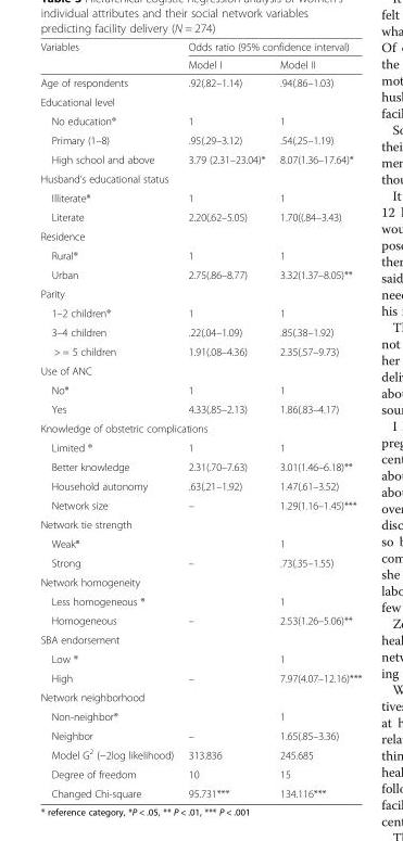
<table><thead><tr><td rowspan="2">Variables</td><td colspan="2">Odds ratio (95% confidence interval)</td></tr><tr><td>Model I</td><td>Model II</td></tr></thead><tbody><tr><td>Age of respondents</td><td>.92(.82–1.14)</td><td>.94(.86–1.03)</td></tr><tr><td colspan="3">Educational level</td></tr><tr><td>No education®</td><td>1</td><td>1</td></tr><tr><td>Primary (1–8)</td><td>.95(.29–3.12)</td><td>.54(.25–1.19)</td></tr><tr><td>High school and above</td><td>3.79 (2.31–23.04)*</td><td>8.07(1.36–17.64)*</td></tr><tr><td colspan="3">Husband’s educational status</td></tr><tr><td>Illiterate®</td><td>1</td><td>1</td></tr><tr><td>Literate</td><td>2.20(.62–5.05)</td><td>1.70((.84–3.43)</td></tr><tr><td colspan="3">Residence</td></tr><tr><td>Rural®</td><td>1</td><td>1</td></tr><tr><td>Urban</td><td>2.75(.86–8.77)</td><td>3.32(1.37–8.05)**</td></tr><tr><td colspan="3">Parity</td></tr><tr><td>1–2 children®</td><td>1</td><td>1</td></tr><tr><td>3–4 children</td><td>.22(.04–1.09)</td><td>.85(.38–1.92)</td></tr><tr><td>&gt; = 5 children</td><td>1.91(.08–4.36)</td><td>2.35(.57–9.73)</td></tr><tr><td colspan="3">Use of ANC</td></tr><tr><td>No®</td><td>1</td><td>1</td></tr><tr><td>Yes</td><td>4.33(.85–2.13)</td><td>1.86(.83–4.17)</td></tr><tr><td colspan="3">Knowledge of obstetric complications</td></tr><tr><td>Limited ®</td><td>1</td><td>1</td></tr><tr><td>Better knowledge</td><td>2.31(.70–7.63)</td><td>3.01(1.46–6.18)**</td></tr><tr><td>Household autonomy</td><td>.63(.21–1.92)</td><td>1.47(.61–3.52)</td></tr><tr><td>Network size</td><td>–</td><td>1.29(1.16–1.45)***</td></tr><tr><td colspan="3">Network tie strength</td></tr><tr><td>Weak®</td><td></td><td>1</td></tr><tr><td>Strong</td><td>–</td><td>.73(.35–1.55)</td></tr><tr><td colspan="3">Network homogeneity</td></tr><tr><td>Less homogeneous ®</td><td></td><td>1</td></tr><tr><td>Homogeneous</td><td>–</td><td>2.53(1.26–5.06)**</td></tr><tr><td colspan="3">SBA endorsement</td></tr><tr><td>Low ®</td><td></td><td>1</td></tr><tr><td>High</td><td>–</td><td>7.97(4.07–12.16)***</td></tr><tr><td colspan="3">Network neighborhood</td></tr><tr><td>Non-neighbor®</td><td></td><td>1</td></tr><tr><td>Neighbor</td><td>–</td><td>1.65(.85–3.36)</td></tr><tr><td>Model G<sup>2</sup> (−2log likelihood)</td><td>313.836</td><td>245.685</td></tr><tr><td>Degree of freedom</td><td>10</td><td>15</td></tr><tr><td>Changed Chi-square</td><td>95.731***</td><td>134.116***</td></tr></tbody></table>